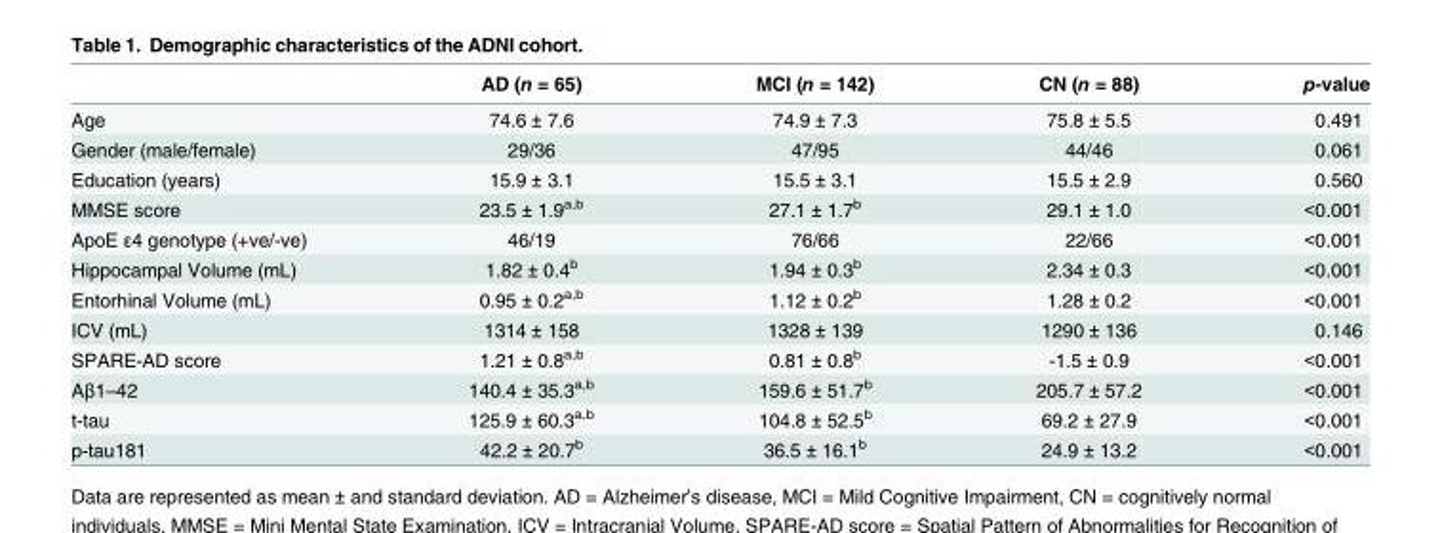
<table><thead><tr><td></td><td>AD (n = 65)</td><td>MCI (n = 142)</td><td>CN (n = 88)</td><td>p-value</td></tr></thead><tbody><tr><td>Age</td><td>74.6 ± 7.6</td><td>74.9 ± 7.3</td><td>75.8 ± 5.5</td><td>0.491</td></tr><tr><td>Gender (male/female)</td><td>29/36</td><td>47/95</td><td>44/46</td><td>0.061</td></tr><tr><td>Education (years)</td><td>15.9 ± 3.1</td><td>15.5 ± 3.1</td><td>15.5 ± 2.9</td><td>0.560</td></tr><tr><td>MMSE score</td><td>23.5 ± 1.9<sup>a,b</sup></td><td>27.1 ± 1.7<sup>b</sup></td><td>29.1 ± 1.0</td><td>&lt;0.001</td></tr><tr><td>ApoE ε4 genotype (+ve/-ve)</td><td>46/19</td><td>76/66</td><td>22/66</td><td>&lt;0.001</td></tr><tr><td>Hippocampal Volume (mL)</td><td>1.82 ± 0.4<sup>b</sup></td><td>1.94 ± 0.3<sup>b</sup></td><td>2.34 ± 0.3</td><td>&lt;0.001</td></tr><tr><td>Entorhinal Volume (mL)</td><td>0.95 ± 0.2<sup>a,b</sup></td><td>1.12 ± 0.2<sup>b</sup></td><td>1.28 ± 0.2</td><td>&lt;0.001</td></tr><tr><td>ICV (mL)</td><td>1314 ± 158</td><td>1328 ± 139</td><td>1290 ± 136</td><td>0.146</td></tr><tr><td>SPARE-AD score</td><td>1.21 ± 0.8<sup>a,b</sup></td><td>0.81 ± 0.8<sup>b</sup></td><td>-1.5 ± 0.9</td><td>&lt;0.001</td></tr><tr><td>Aβ1–42</td><td>140.4 ± 35.3<sup>a,b</sup></td><td>159.6 ± 51.7<sup>b</sup></td><td>205.7 ± 57.2</td><td>&lt;0.001</td></tr><tr><td>t-tau</td><td>125.9 ± 60.3<sup>a,b</sup></td><td>104.8 ± 52.5<sup>b</sup></td><td>69.2 ± 27.9</td><td>&lt;0.001</td></tr><tr><td>p-tau181</td><td>42.2 ± 20.7<sup>b</sup></td><td>36.5 ± 16.1<sup>b</sup></td><td>24.9 ± 13.2</td><td>&lt;0.001</td></tr></tbody></table>